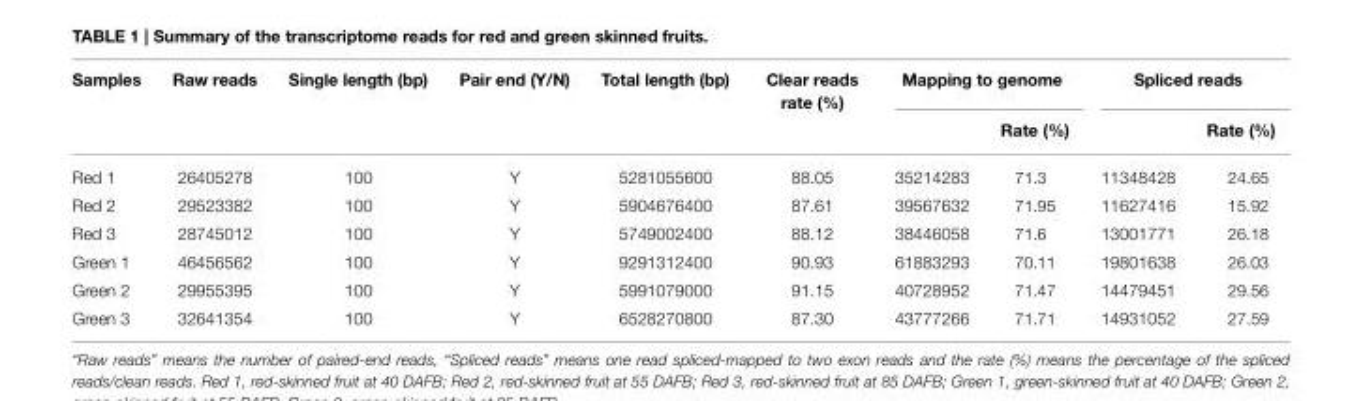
<table><thead><tr><td rowspan="2">Samples</td><td rowspan="2">Raw reads</td><td rowspan="2">Single length (bp)</td><td rowspan="2">Pair end (Y/N)</td><td rowspan="2">Total length (bp)</td><td rowspan="2">Clear reads rate (%)</td><td colspan="2">Mapping to genome</td><td colspan="2">Spliced reads</td></tr><tr><td></td><td>Rate (%)</td><td></td><td>Rate (%)</td></tr></thead><tbody><tr><td>Red 1</td><td>26405278</td><td>100</td><td>Y</td><td>5281055600</td><td>88.05</td><td>35214283</td><td>71.3</td><td>11348428</td><td>24.65</td></tr><tr><td>Red 2</td><td>29523382</td><td>100</td><td>Y</td><td>5904676400</td><td>87.61</td><td>39567632</td><td>71.95</td><td>11627416</td><td>15.92</td></tr><tr><td>Red 3</td><td>28745012</td><td>100</td><td>Y</td><td>5749002400</td><td>88.12</td><td>38446058</td><td>71.6</td><td>13001771</td><td>26.18</td></tr><tr><td>Green 1</td><td>46456562</td><td>100</td><td>Y</td><td>9291312400</td><td>90.93</td><td>61883293</td><td>70.11</td><td>19801638</td><td>26.03</td></tr><tr><td>Green 2</td><td>29955395</td><td>100</td><td>Y</td><td>5991079000</td><td>91.15</td><td>40728952</td><td>71.47</td><td>14479451</td><td>29.56</td></tr><tr><td>Green 3</td><td>32641354</td><td>100</td><td>Y</td><td>6528270800</td><td>87.30</td><td>43777266</td><td>71.71</td><td>14931052</td><td>27.59</td></tr></tbody></table>